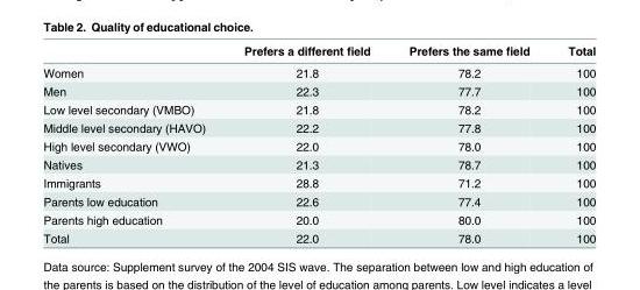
<table><thead><tr><td></td><td>Prefers a different field</td><td>Prefers the same field</td><td>Total</td></tr></thead><tbody><tr><td>Women</td><td>21.8</td><td>78.2</td><td>100</td></tr><tr><td>Men</td><td>22.3</td><td>77.7</td><td>100</td></tr><tr><td>Low level secondary (VMBO)</td><td>21.8</td><td>78.2</td><td>100</td></tr><tr><td>Middle level secondary (HAVO)</td><td>22.2</td><td>77.8</td><td>100</td></tr><tr><td>High level secondary (VWO)</td><td>22.0</td><td>78.0</td><td>100</td></tr><tr><td>Natives</td><td>21.3</td><td>78.7</td><td>100</td></tr><tr><td>Immigrants</td><td>28.8</td><td>71.2</td><td>100</td></tr><tr><td>Parents low education</td><td>22.6</td><td>77.4</td><td>100</td></tr><tr><td>Parents high education</td><td>20.0</td><td>80.0</td><td>100</td></tr><tr><td>Total</td><td>22.0</td><td>78.0</td><td>100</td></tr></tbody></table>